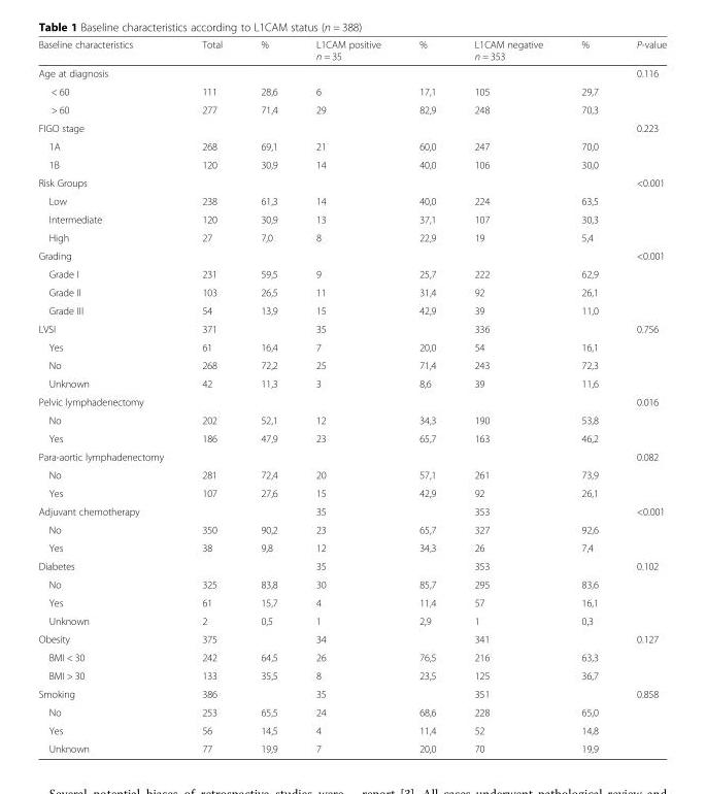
<table><thead><tr><td>Baseline characteristics</td><td>Total</td><td>%</td><td>L1CAM positive n = 35</td><td>%</td><td>L1CAM negative n = 353</td><td>%</td><td>P-value</td></tr></thead><tbody><tr><td>Age at diagnosis</td><td></td><td></td><td></td><td></td><td></td><td></td><td>0.116</td></tr><tr><td>&lt; 60</td><td>111</td><td>28,6</td><td>6</td><td>17,1</td><td>105</td><td>29,7</td><td></td></tr><tr><td>&gt; 60</td><td>277</td><td>71,4</td><td>29</td><td>82,9</td><td>248</td><td>70,3</td><td></td></tr><tr><td>FIGO stage</td><td></td><td></td><td></td><td></td><td></td><td></td><td>0.223</td></tr><tr><td>1A</td><td>268</td><td>69,1</td><td>21</td><td>60,0</td><td>247</td><td>70,0</td><td></td></tr><tr><td>1B</td><td>120</td><td>30,9</td><td>14</td><td>40,0</td><td>106</td><td>30,0</td><td></td></tr><tr><td>Risk Groups</td><td></td><td></td><td></td><td></td><td></td><td></td><td>&lt;0.001</td></tr><tr><td>Low</td><td>238</td><td>61,3</td><td>14</td><td>40,0</td><td>224</td><td>63,5</td><td></td></tr><tr><td>Intermediate</td><td>120</td><td>30,9</td><td>13</td><td>37,1</td><td>107</td><td>30,3</td><td></td></tr><tr><td>High</td><td>27</td><td>7,0</td><td>8</td><td>22,9</td><td>19</td><td>5,4</td><td></td></tr><tr><td>Grading</td><td></td><td></td><td></td><td></td><td></td><td></td><td>&lt;0.001</td></tr><tr><td>Grade I</td><td>231</td><td>59,5</td><td>9</td><td>25,7</td><td>222</td><td>62,9</td><td></td></tr><tr><td>Grade II</td><td>103</td><td>26,5</td><td>11</td><td>31,4</td><td>92</td><td>26,1</td><td></td></tr><tr><td>Grade III</td><td>54</td><td>13,9</td><td>15</td><td>42,9</td><td>39</td><td>11,0</td><td></td></tr><tr><td>LVSI</td><td>371</td><td></td><td>35</td><td></td><td>336</td><td></td><td>0.756</td></tr><tr><td>Yes</td><td>61</td><td>16,4</td><td>7</td><td>20,0</td><td>54</td><td>16,1</td><td></td></tr><tr><td>No</td><td>268</td><td>72,2</td><td>25</td><td>71,4</td><td>243</td><td>72,3</td><td></td></tr><tr><td>Unknown</td><td>42</td><td>11,3</td><td>3</td><td>8,6</td><td>39</td><td>11,6</td><td></td></tr><tr><td>Pelvic lymphadenectomy</td><td></td><td></td><td></td><td></td><td></td><td></td><td>0.016</td></tr><tr><td>No</td><td>202</td><td>52,1</td><td>12</td><td>34,3</td><td>190</td><td>53,8</td><td></td></tr><tr><td>Yes</td><td>186</td><td>47,9</td><td>23</td><td>65,7</td><td>163</td><td>46,2</td><td></td></tr><tr><td>Para-aortic lymphadenectomy</td><td></td><td></td><td></td><td></td><td></td><td></td><td>0.082</td></tr><tr><td>No</td><td>281</td><td>72,4</td><td>20</td><td>57,1</td><td>261</td><td>73,9</td><td></td></tr><tr><td>Yes</td><td>107</td><td>27,6</td><td>15</td><td>42,9</td><td>92</td><td>26,1</td><td></td></tr><tr><td>Adjuvant chemotherapy</td><td></td><td></td><td>35</td><td></td><td>353</td><td></td><td>&lt;0.001</td></tr><tr><td>No</td><td>350</td><td>90,2</td><td>23</td><td>65,7</td><td>327</td><td>92,6</td><td></td></tr><tr><td>Yes</td><td>38</td><td>9,8</td><td>12</td><td>34,3</td><td>26</td><td>7,4</td><td></td></tr><tr><td>Diabetes</td><td></td><td></td><td>35</td><td></td><td>353</td><td></td><td>0.102</td></tr><tr><td>No</td><td>325</td><td>83,8</td><td>30</td><td>85,7</td><td>295</td><td>83,6</td><td></td></tr><tr><td>Yes</td><td>61</td><td>15,7</td><td>4</td><td>11,4</td><td>57</td><td>16,1</td><td></td></tr><tr><td>Unknown</td><td>2</td><td>0,5</td><td>1</td><td>2,9</td><td>1</td><td>0,3</td><td></td></tr><tr><td>Obesity</td><td>375</td><td></td><td>34</td><td></td><td>341</td><td></td><td>0.127</td></tr><tr><td>BMI &lt; 30</td><td>242</td><td>64,5</td><td>26</td><td>76,5</td><td>216</td><td>63,3</td><td></td></tr><tr><td>BMI &gt; 30</td><td>133</td><td>35,5</td><td>8</td><td>23,5</td><td>125</td><td>36,7</td><td></td></tr><tr><td>Smoking</td><td>386</td><td></td><td>35</td><td></td><td>351</td><td></td><td>0.858</td></tr><tr><td>No</td><td>253</td><td>65,5</td><td>24</td><td>68,6</td><td>228</td><td>65,0</td><td></td></tr><tr><td>Yes</td><td>56</td><td>14,5</td><td>4</td><td>11,4</td><td>52</td><td>14,8</td><td></td></tr><tr><td>Unknown</td><td>77</td><td>19,9</td><td>7</td><td>20,0</td><td>70</td><td>19,9</td><td></td></tr></tbody></table>